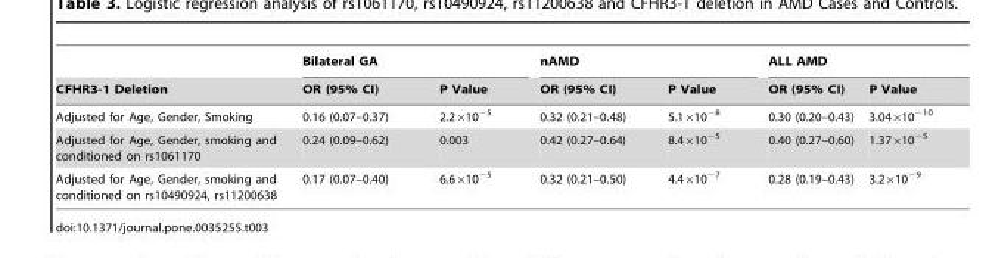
<table><thead><tr><td rowspan="2">CFHR3-1 Deletion</td><td colspan="2">Bilateral GA</td><td colspan="2">nAMD</td><td colspan="2">ALL AMD</td></tr><tr><td>OR (95% CI)</td><td>P Value</td><td>OR (95% CI)</td><td>P Value</td><td>OR (95% CI)</td><td>P Value</td></tr></thead><tbody><tr><td>Adjusted for Age, Gender, Smoking</td><td>0.16 (0.07–0.37)</td><td>2.2×10<sup>−5</sup></td><td>0.32 (0.21–0.48)</td><td>5.1×10<sup>−8</sup></td><td>0.30 (0.20–0.43)</td><td>3.04×10<sup>−10</sup></td></tr><tr><td>Adjusted for Age, Gender, smoking and conditioned on rs1061170</td><td>0.24 (0.09–0.62)</td><td>0.003</td><td>0.42 (0.27–0.64)</td><td>8.4×10<sup>−5</sup></td><td>0.40 (0.27–0.60)</td><td>1.37×10<sup>−5</sup></td></tr><tr><td>Adjusted for Age, Gender, smoking and conditioned on rs10490924, rs11200638</td><td>0.17 (0.07–0.40)</td><td>6.6×10<sup>−5</sup></td><td>0.32 (0.21–0.50)</td><td>4.4×10<sup>−7</sup></td><td>0.28 (0.19–0.43)</td><td>3.2×10<sup>−9</sup></td></tr></tbody></table>